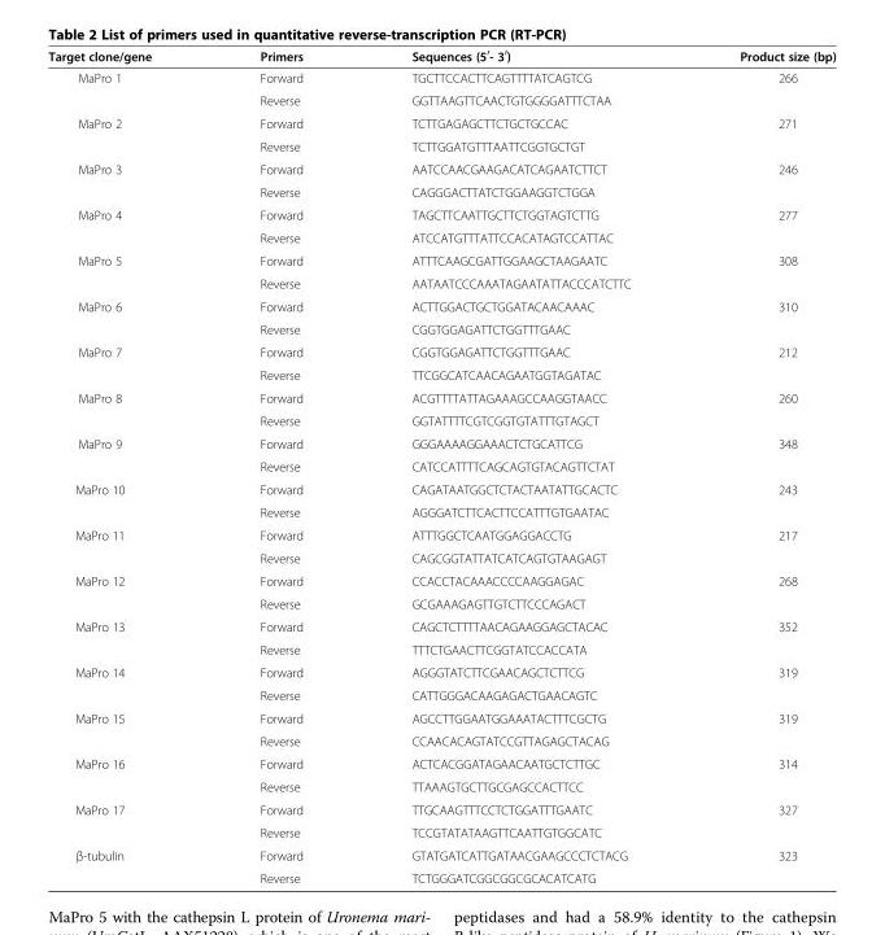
<table><thead><tr><td>Target clone/gene</td><td>Primers</td><td>Sequences (5<sup>′</sup>- 3<sup>′</sup>)</td><td>Product size (bp)</td></tr></thead><tbody><tr><td rowspan="2">MaPro 1</td><td>Forward</td><td>TGCTTCCACTTCAGTTTTATCAGTCG</td><td>266</td></tr><tr><td>Reverse</td><td>GGTTAAGTTCAACTGTGGGGATTTCTAA</td><td></td></tr><tr><td rowspan="2">MaPro 2</td><td>Forward</td><td>TCTTGAGAGCTTCTGCTGCCAC</td><td>271</td></tr><tr><td>Reverse</td><td>TCTTGGATGTTTAATTCGGTGCTGT</td><td></td></tr><tr><td rowspan="2">MaPro 3</td><td>Forward</td><td>AATCCAACGAAGACATCAGAATCTTCT</td><td>246</td></tr><tr><td>Reverse</td><td>CAGGGACTTATCTGGAAGGTCTGGA</td><td></td></tr><tr><td rowspan="2">MaPro 4</td><td>Forward</td><td>TAGCTTCAATTGCTTCTGGTAGTCTTG</td><td>277</td></tr><tr><td>Reverse</td><td>ATCCATGTTTATTCCACATAGTCCATTAC</td><td></td></tr><tr><td rowspan="2">MaPro 5</td><td>Forward</td><td>ATTTCAAGCGATTGGAAGCTAAGAATC</td><td>308</td></tr><tr><td>Reverse</td><td>AATAATCCCAAATAGAATATTACCCATCTTC</td><td></td></tr><tr><td rowspan="2">MaPro 6</td><td>Forward</td><td>ACTTGGACTGCTGGATACAACAAAC</td><td>310</td></tr><tr><td>Reverse</td><td>CGGTGGAGATTCTGGTTTGAAC</td><td></td></tr><tr><td rowspan="2">MaPro 7</td><td>Forward</td><td>CGGTGGAGATTCTGGTTTGAAC</td><td>212</td></tr><tr><td>Reverse</td><td>TTCGGCATCAACAGAATGGTAGATAC</td><td></td></tr><tr><td rowspan="2">MaPro 8</td><td>Forward</td><td>ACGTTTTATTAGAAAGCCAAGGTAACC</td><td>260</td></tr><tr><td>Reverse</td><td>GGTATTTTCGTCGGTGTATTTGTAGCT</td><td></td></tr><tr><td rowspan="2">MaPro 9</td><td>Forward</td><td>GGGAAAAGGAAACTCTGCATTCG</td><td>348</td></tr><tr><td>Reverse</td><td>CATCCATTTTCAGCAGTGTACAGTTCTAT</td><td></td></tr><tr><td rowspan="2">MaPro 10</td><td>Forward</td><td>CAGATAATGGCTCTACTAATATTGCACTC</td><td>243</td></tr><tr><td>Reverse</td><td>AGGGATCTTCACTTCCATTTGTGAATAC</td><td></td></tr><tr><td rowspan="2">MaPro 11</td><td>Forward</td><td>ATTTGGCTCAATGGAGGACCTG</td><td>217</td></tr><tr><td>Reverse</td><td>CAGCGGTATTATCATCAGTGTAAGAGT</td><td></td></tr><tr><td rowspan="2">MaPro 12</td><td>Forward</td><td>CCACCTACAAACCCCAAGGAGAC</td><td>268</td></tr><tr><td>Reverse</td><td>GCGAAAGAGTTGTCTTCCCAGACT</td><td></td></tr><tr><td rowspan="2">MaPro 13</td><td>Forward</td><td>CAGCTCTTTTAACAGAAGGAGCTACAC</td><td>352</td></tr><tr><td>Reverse</td><td>TTTCTGAACTTCGGTATCCACCATA</td><td></td></tr><tr><td rowspan="2">MaPro 14</td><td>Forward</td><td>AGGGTATCTTCGAACAGCTCTTCG</td><td>319</td></tr><tr><td>Reverse</td><td>CATTGGGACAAGAGACTGAACAGTC</td><td></td></tr><tr><td rowspan="2">MaPro 15</td><td>Forward</td><td>AGCCTTGGAATGGAAATACTTTCGCTG</td><td>319</td></tr><tr><td>Reverse</td><td>CCAACACAGTATCCGTTAGAGCTACAG</td><td></td></tr><tr><td rowspan="2">MaPro 16</td><td>Forward</td><td>ACTCACGGATAGAACAATGCTCTTGC</td><td>314</td></tr><tr><td>Reverse</td><td>TTAAAGTGCTTGCGAGCCACTTCC</td><td></td></tr><tr><td rowspan="2">MaPro 17</td><td>Forward</td><td>TTGCAAGTTTCCTCTGGATTTGAATC</td><td>327</td></tr><tr><td>Reverse</td><td>TCCGTATATAAGTTCAATTGTGGCATC</td><td></td></tr><tr><td rowspan="2">β-tubulin</td><td>Forward</td><td>GTATGATCATTGATAACGAAGCCCTCTACG</td><td>323</td></tr><tr><td>Reverse</td><td>TCTGGGATCGGCGGCGCACATCATG</td><td></td></tr></tbody></table>